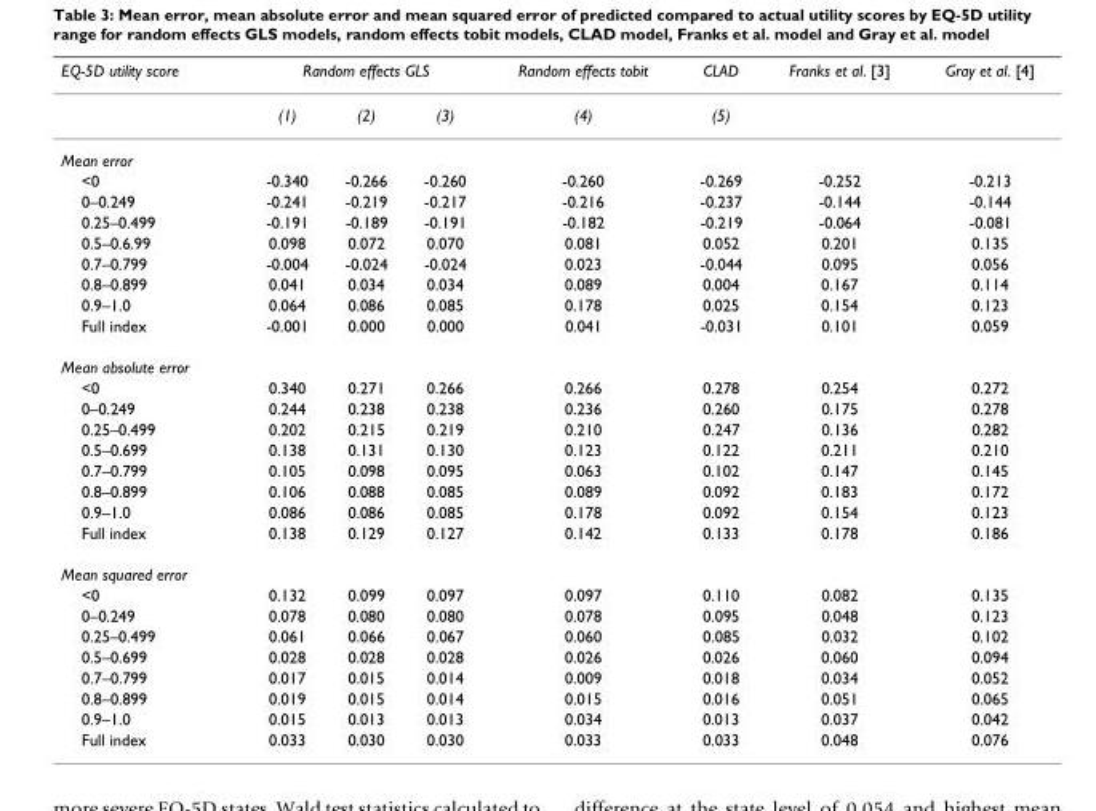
<table><thead><tr><td rowspan="2">EQ-5D utility score</td><td colspan="3">Random effects GLS</td><td rowspan="2">Random effects tobit (4)</td><td rowspan="2">CLAD (5)</td><td rowspan="2">Franks et al. [3]</td><td rowspan="2">Gray et al. [4]</td></tr><tr><td>(1)</td><td>(2)</td><td>(3)</td></tr></thead><tbody><tr><td colspan="8">Mean error</td></tr><tr><td>&lt;0</td><td>-0.340</td><td>-0.266</td><td>-0.260</td><td>-0.260</td><td>-0.269</td><td>-0.252</td><td>-0.213</td></tr><tr><td>0–0.249</td><td>-0.241</td><td>-0.219</td><td>-0.217</td><td>-0.216</td><td>-0.237</td><td>-0.144</td><td>-0.144</td></tr><tr><td>0.25–0.499</td><td>-0.191</td><td>-0.189</td><td>-0.191</td><td>-0.182</td><td>-0.219</td><td>-0.064</td><td>-0.081</td></tr><tr><td>0.5–0.6.99</td><td>0.098</td><td>0.072</td><td>0.070</td><td>0.081</td><td>0.052</td><td>0.201</td><td>0.135</td></tr><tr><td>0.7–0.799</td><td>-0.004</td><td>-0.024</td><td>-0.024</td><td>0.023</td><td>-0.044</td><td>0.095</td><td>0.056</td></tr><tr><td>0.8–0.899</td><td>0.041</td><td>0.034</td><td>0.034</td><td>0.089</td><td>0.004</td><td>0.167</td><td>0.114</td></tr><tr><td>0.9–1.0</td><td>0.064</td><td>0.086</td><td>0.085</td><td>0.178</td><td>0.025</td><td>0.154</td><td>0.123</td></tr><tr><td>Full index</td><td>-0.001</td><td>0.000</td><td>0.000</td><td>0.041</td><td>-0.031</td><td>0.101</td><td>0.059</td></tr><tr><td colspan="8">Mean absolute error</td></tr><tr><td>&lt;0</td><td>0.340</td><td>0.271</td><td>0.266</td><td>0.266</td><td>0.278</td><td>0.254</td><td>0.272</td></tr><tr><td>0–0.249</td><td>0.244</td><td>0.238</td><td>0.238</td><td>0.236</td><td>0.260</td><td>0.175</td><td>0.278</td></tr><tr><td>0.25–0.499</td><td>0.202</td><td>0.215</td><td>0.219</td><td>0.210</td><td>0.247</td><td>0.136</td><td>0.282</td></tr><tr><td>0.5–0.699</td><td>0.138</td><td>0.131</td><td>0.130</td><td>0.123</td><td>0.122</td><td>0.211</td><td>0.210</td></tr><tr><td>0.7–0.799</td><td>0.105</td><td>0.098</td><td>0.095</td><td>0.063</td><td>0.102</td><td>0.147</td><td>0.145</td></tr><tr><td>0.8–0.899</td><td>0.106</td><td>0.088</td><td>0.085</td><td>0.089</td><td>0.092</td><td>0.183</td><td>0.172</td></tr><tr><td>0.9–1.0</td><td>0.086</td><td>0.086</td><td>0.085</td><td>0.178</td><td>0.092</td><td>0.154</td><td>0.123</td></tr><tr><td>Full index</td><td>0.138</td><td>0.129</td><td>0.127</td><td>0.142</td><td>0.133</td><td>0.178</td><td>0.186</td></tr><tr><td colspan="8">Mean squared error</td></tr><tr><td>&lt;0</td><td>0.132</td><td>0.099</td><td>0.097</td><td>0.097</td><td>0.110</td><td>0.082</td><td>0.135</td></tr><tr><td>0–0.249</td><td>0.078</td><td>0.080</td><td>0.080</td><td>0.078</td><td>0.095</td><td>0.048</td><td>0.123</td></tr><tr><td>0.25–0.499</td><td>0.061</td><td>0.066</td><td>0.067</td><td>0.060</td><td>0.085</td><td>0.032</td><td>0.102</td></tr><tr><td>0.5–0.699</td><td>0.028</td><td>0.028</td><td>0.028</td><td>0.026</td><td>0.026</td><td>0.060</td><td>0.094</td></tr><tr><td>0.7–0.799</td><td>0.017</td><td>0.015</td><td>0.014</td><td>0.009</td><td>0.018</td><td>0.034</td><td>0.052</td></tr><tr><td>0.8–0.899</td><td>0.019</td><td>0.015</td><td>0.014</td><td>0.015</td><td>0.016</td><td>0.051</td><td>0.065</td></tr><tr><td>0.9–1.0</td><td>0.015</td><td>0.013</td><td>0.013</td><td>0.034</td><td>0.013</td><td>0.037</td><td>0.042</td></tr><tr><td>Full index</td><td>0.033</td><td>0.030</td><td>0.030</td><td>0.033</td><td>0.033</td><td>0.048</td><td>0.076</td></tr></tbody></table>